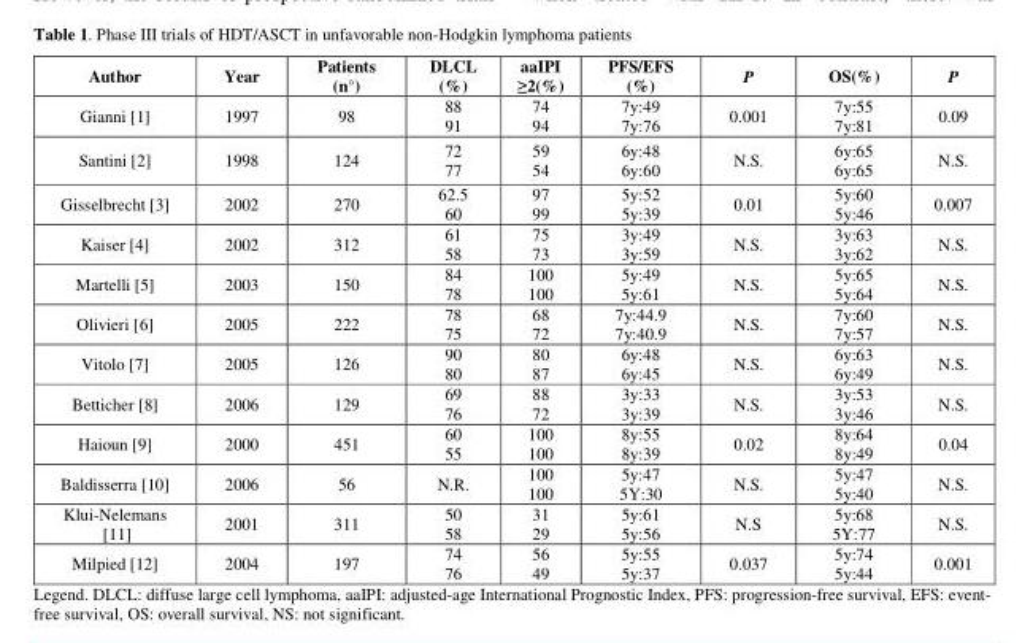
<table><thead><tr><td>Author</td><td>Year</td><td>Patients (n°)</td><td>DLCL (%)</td><td>aaIPI ≥2(%)</td><td>PFS/EFS (%)</td><td>P</td><td>OS(%)</td><td>P</td></tr></thead><tbody><tr><td>Gianni [1]</td><td>1997</td><td>98</td><td>88 91</td><td>74 94</td><td>7y:49 7y:76</td><td>0.001</td><td>7y:55 7y:81</td><td>0.09</td></tr><tr><td>Santini [2]</td><td>1998</td><td>124</td><td>72 77</td><td>59 54</td><td>6y:48 6y:60</td><td>N.S.</td><td>6y:65 6y:65</td><td>N.S.</td></tr><tr><td>Gisselbrecht [3]</td><td>2002</td><td>270</td><td>62.5 60</td><td>97 99</td><td>5y:52 5y:39</td><td>0.01</td><td>5y:60 5y:46</td><td>0.007</td></tr><tr><td>Kaiser [4]</td><td>2002</td><td>312</td><td>61 58</td><td>75 73</td><td>3y:49 3y:59</td><td>N.S.</td><td>3y:63 3y:62</td><td>N.S.</td></tr><tr><td>Martelli [5]</td><td>2003</td><td>150</td><td>84 78</td><td>100 100</td><td>5y:49 5y:61</td><td>N.S.</td><td>5y:65 5y:64</td><td>N.S.</td></tr><tr><td>Olivieri [6]</td><td>2005</td><td>222</td><td>78 75</td><td>68 72</td><td>7y:44.9 7y:40.9</td><td>N.S.</td><td>7y:60 7y:57</td><td>N.S.</td></tr><tr><td>Vitolo [7]</td><td>2005</td><td>126</td><td>90 80</td><td>80 87</td><td>6y:48 6y:45</td><td>N.S.</td><td>6y:63 6y:49</td><td>N.S.</td></tr><tr><td>Betticher [8]</td><td>2006</td><td>129</td><td>69 76</td><td>88 72</td><td>3y:33 3y:39</td><td>N.S.</td><td>3y:53 3y:46</td><td>N.S.</td></tr><tr><td>Haioun [9]</td><td>2000</td><td>451</td><td>60 55</td><td>100 100</td><td>8y:55 8y:39</td><td>0.02</td><td>8y:64 8y:49</td><td>0.04</td></tr><tr><td>Baldisserra [10]</td><td>2006</td><td>56</td><td>N.R.</td><td>100 100</td><td>5y:47 5Y:30</td><td>N.S.</td><td>5y:47 5y:40</td><td>N.S.</td></tr><tr><td>Klui-Nelemans [11]</td><td>2001</td><td>311</td><td>50 58</td><td>31 29</td><td>5y:61 5y:56</td><td>N.S</td><td>5y:68 5Y:77</td><td>N.S.</td></tr><tr><td>Milpied [12]</td><td>2004</td><td>197</td><td>74 76</td><td>56 49</td><td>5y:55 5y:37</td><td>0.037</td><td>5y:74 5y:44</td><td>0.001</td></tr></tbody></table>